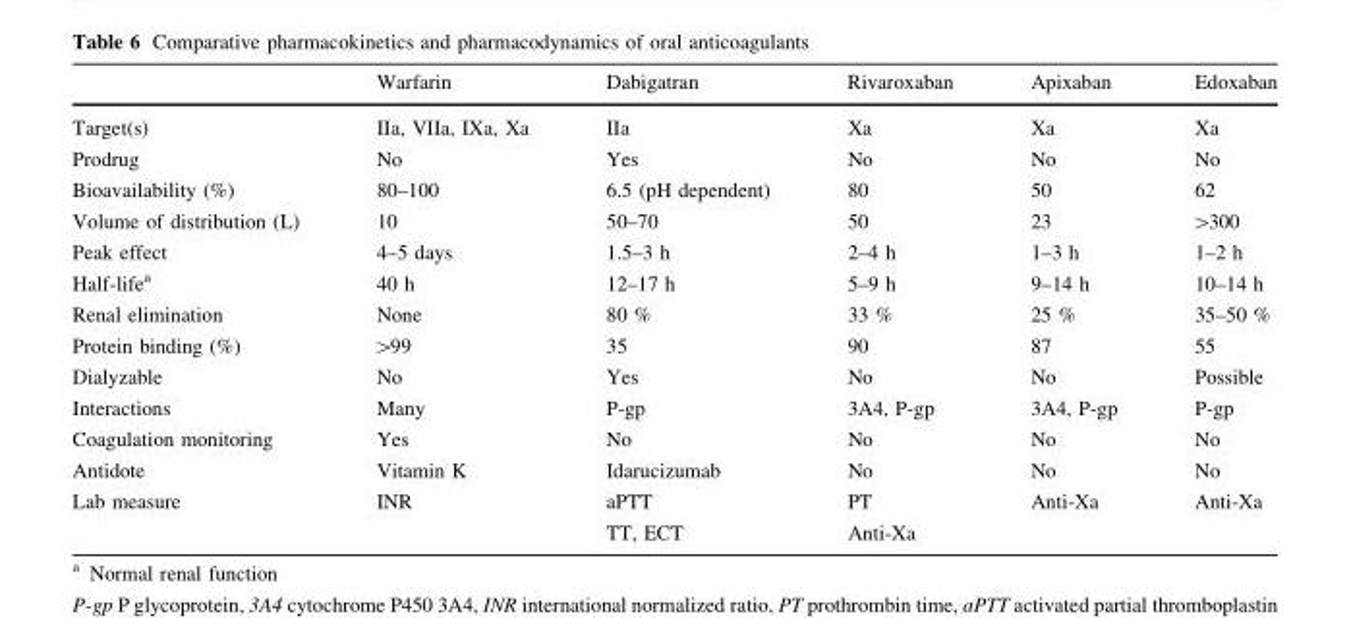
<table><thead><tr><td></td><td>Warfarin</td><td>Dabigatran</td><td>Rivaroxaban</td><td>Apixaban</td><td>Edoxaban</td></tr></thead><tbody><tr><td>Target(s)</td><td>IIa, VIIa, IXa, Xa</td><td>IIa</td><td>Xa</td><td>Xa</td><td>Xa</td></tr><tr><td>Prodrug</td><td>No</td><td>Yes</td><td>No</td><td>No</td><td>No</td></tr><tr><td>Bioavailability (%)</td><td>80–100</td><td>6.5 (pH dependent)</td><td>80</td><td>50</td><td>62</td></tr><tr><td>Volume of distribution (L)</td><td>10</td><td>50–70</td><td>50</td><td>23</td><td>&gt;300</td></tr><tr><td>Peak effect</td><td>4–5 days</td><td>1.5–3 h</td><td>2–4 h</td><td>1–3 h</td><td>1–2 h</td></tr><tr><td>Half-life<sup>a</sup></td><td>40 h</td><td>12–17 h</td><td>5–9 h</td><td>9–14 h</td><td>10–14 h</td></tr><tr><td>Renal elimination</td><td>None</td><td>80 %</td><td>33 %</td><td>25 %</td><td>35–50 %</td></tr><tr><td>Protein binding (%)</td><td>&gt;99</td><td>35</td><td>90</td><td>87</td><td>55</td></tr><tr><td>Dialyzable</td><td>No</td><td>Yes</td><td>No</td><td>No</td><td>Possible</td></tr><tr><td>Interactions</td><td>Many</td><td>P-gp</td><td>3A4, P-gp</td><td>3A4, P-gp</td><td>P-gp</td></tr><tr><td>Coagulation monitoring</td><td>Yes</td><td>No</td><td>No</td><td>No</td><td>No</td></tr><tr><td>Antidote</td><td>Vitamin K</td><td>Idarucizumab</td><td>No</td><td>No</td><td>No</td></tr><tr><td>Lab measure</td><td>INR</td><td>aPTT TT, ECT</td><td>PT Anti-Xa</td><td>Anti-Xa</td><td>Anti-Xa</td></tr></tbody></table>